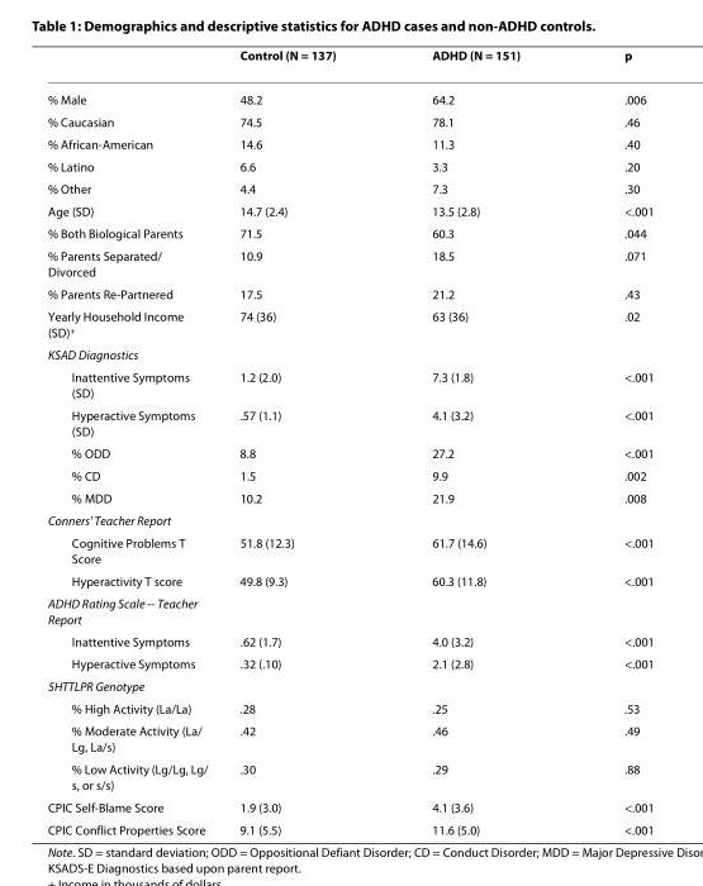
<table><thead><tr><td></td><td>Control (N = 137)</td><td>ADHD (N = 151)</td><td>p</td></tr></thead><tbody><tr><td>% Male</td><td>48.2</td><td>64.2</td><td>.006</td></tr><tr><td>% Caucasian</td><td>74.5</td><td>78.1</td><td>.46</td></tr><tr><td>% African-American</td><td>14.6</td><td>11.3</td><td>.40</td></tr><tr><td>% Latino</td><td>6.6</td><td>3.3</td><td>.20</td></tr><tr><td>% Other</td><td>4.4</td><td>7.3</td><td>.30</td></tr><tr><td>Age (SD)</td><td>14.7 (2.4)</td><td>13.5 (2.8)</td><td>&lt;.001</td></tr><tr><td>% Both Biological Parents</td><td>71.5</td><td>60.3</td><td>.044</td></tr><tr><td>% Parents Separated/ Divorced</td><td>10.9</td><td>18.5</td><td>.071</td></tr><tr><td>% Parents Re-Partnered</td><td>17.5</td><td>21.2</td><td>.43</td></tr><tr><td>Yearly Household Income (SD)<sup>+</sup></td><td>74 (36)</td><td>63 (36)</td><td>.02</td></tr><tr><td colspan="4">KSAD Diagnostics</td></tr><tr><td>Inattentive Symptoms (SD)</td><td>1.2 (2.0)</td><td>7.3 (1.8)</td><td>&lt;.001</td></tr><tr><td>Hyperactive Symptoms (SD)</td><td>.57 (1.1)</td><td>4.1 (3.2)</td><td>&lt;.001</td></tr><tr><td>% ODD</td><td>8.8</td><td>27.2</td><td>&lt;.001</td></tr><tr><td>% CD</td><td>1.5</td><td>9.9</td><td>.002</td></tr><tr><td>% MDD</td><td>10.2</td><td>21.9</td><td>.008</td></tr><tr><td colspan="4">Conners&#x27; Teacher Report</td></tr><tr><td>Cognitive Problems T Score</td><td>51.8 (12.3)</td><td>61.7 (14.6)</td><td>&lt;.001</td></tr><tr><td>Hyperactivity T score</td><td>49.8 (9.3)</td><td>60.3 (11.8)</td><td>&lt;.001</td></tr><tr><td colspan="4">ADHD Rating Scale -- Teacher Report</td></tr><tr><td>Inattentive Symptoms</td><td>.62 (1.7)</td><td>4.0 (3.2)</td><td>&lt;.001</td></tr><tr><td>Hyperactive Symptoms</td><td>.32 (.10)</td><td>2.1 (2.8)</td><td>&lt;.001</td></tr><tr><td colspan="4">5HTTLPR Genotype</td></tr><tr><td>% High Activity (La/La)</td><td>.28</td><td>.25</td><td>.53</td></tr><tr><td>% Moderate Activity (La/ Lg, La/s)</td><td>.42</td><td>.46</td><td>.49</td></tr><tr><td>% Low Activity (Lg/Lg, Lg/ s, or s/s)</td><td>.30</td><td>.29</td><td>.88</td></tr><tr><td>CPIC Self-Blame Score</td><td>1.9 (3.0)</td><td>4.1 (3.6)</td><td>&lt;.001</td></tr><tr><td>CPIC Conflict Properties Score</td><td>9.1 (5.5)</td><td>11.6 (5.0)</td><td>&lt;.001</td></tr></tbody></table>